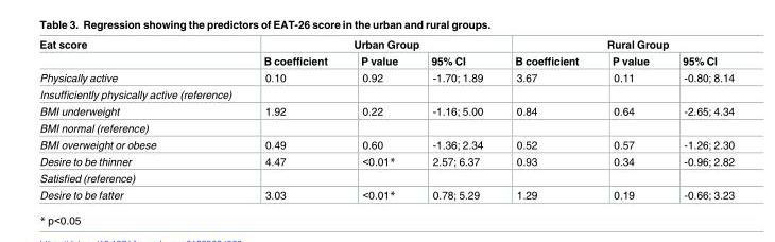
<table><thead><tr><td rowspan="2">Eat score</td><td colspan="3">Urban Group</td><td colspan="3">Rural Group</td></tr><tr><td>B coefficient</td><td>P value</td><td>95% CI</td><td>B coefficient</td><td>P value</td><td>95% CI</td></tr></thead><tbody><tr><td>Physically active</td><td>0.10</td><td>0.92</td><td>-1.70; 1.89</td><td>3.67</td><td>0.11</td><td>-0.80; 8.14</td></tr><tr><td colspan="7">Insufficiently physically active (reference)</td></tr><tr><td>BMI underweight</td><td>1.92</td><td>0.22</td><td>-1.16; 5.00</td><td>0.84</td><td>0.64</td><td>-2.65; 4.34</td></tr><tr><td colspan="7">BMI normal (reference)</td></tr><tr><td>BMI overweight or obese</td><td>0.49</td><td>0.60</td><td>-1.36; 2.34</td><td>0.52</td><td>0.57</td><td>-1.26; 2.30</td></tr><tr><td>Desire to be thinner</td><td>4.47</td><td>&lt;0.01*</td><td>2.57; 6.37</td><td>0.93</td><td>0.34</td><td>-0.96; 2.82</td></tr><tr><td colspan="7">Satisfied (reference)</td></tr><tr><td>Desire to be fatter</td><td>3.03</td><td>&lt;0.01*</td><td>0.78; 5.29</td><td>1.29</td><td>0.19</td><td>-0.66; 3.23</td></tr></tbody></table>